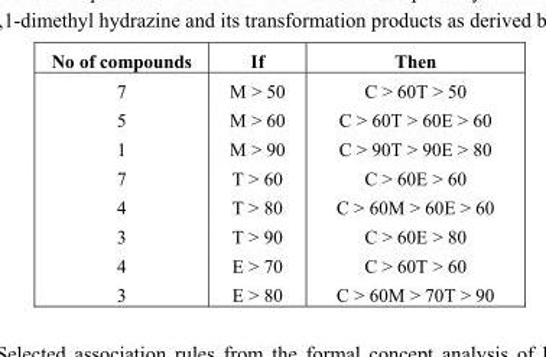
<table><thead><tr><td>No of compounds</td><td>If</td><td>Then</td></tr></thead><tbody><tr><td>7</td><td>M &gt; 50</td><td>C &gt; 60T &gt; 50</td></tr><tr><td>5</td><td>M &gt; 60</td><td>C &gt; 60T &gt; 60E &gt; 60</td></tr><tr><td>1</td><td>M &gt; 90</td><td>C &gt; 90T &gt; 90E &gt; 80</td></tr><tr><td>7</td><td>T &gt; 60</td><td>C &gt; 60E &gt; 60</td></tr><tr><td>4</td><td>T &gt; 80</td><td>C &gt; 60M &gt; 60E &gt; 60</td></tr><tr><td>3</td><td>T &gt; 90</td><td>C &gt; 60E &gt; 80</td></tr><tr><td>4</td><td>E &gt; 70</td><td>C &gt; 60T &gt; 60</td></tr><tr><td>3</td><td>E &gt; 80</td><td>C &gt; 60M &gt; 70T &gt; 90</td></tr></tbody></table>